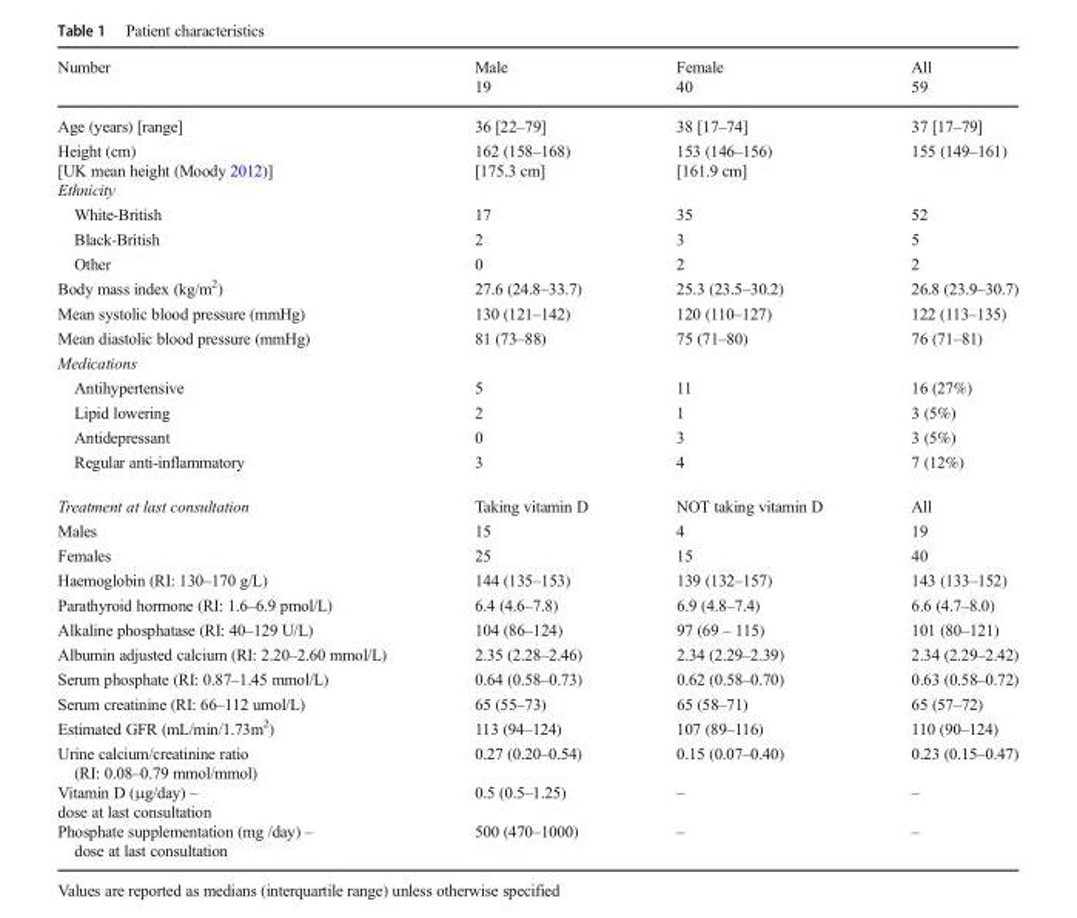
<table><thead><tr><td rowspan="2">Number</td><td rowspan="2">Male 19</td><td rowspan="2">Female 40</td><td rowspan="2">All 59</td></tr><tr></tr></thead><tbody><tr><td>Age (years) [range]</td><td>36 [22–79]</td><td>38 [17–74]</td><td>37 [17–79]</td></tr><tr><td>Height (cm) [UK mean height (Moody 2012)]</td><td>162 (158–168) [175.3 cm]</td><td>153 (146–156) [161.9 cm]</td><td>155 (149–161)</td></tr><tr><td colspan="4">Ethnicity</td></tr><tr><td>White-British</td><td>17</td><td>35</td><td>52</td></tr><tr><td>Black-British</td><td>2</td><td>3</td><td>5</td></tr><tr><td>Other</td><td>0</td><td>2</td><td>2</td></tr><tr><td>Body mass index (kg/m<sup>2</sup>)</td><td>27.6 (24.8–33.7)</td><td>25.3 (23.5–30.2)</td><td>26.8 (23.9–30.7)</td></tr><tr><td>Mean systolic blood pressure (mmHg)</td><td>130 (121–142)</td><td>120 (110–127)</td><td>122 (113–135)</td></tr><tr><td>Mean diastolic blood pressure (mmHg)</td><td>81 (73–88)</td><td>75 (71–80)</td><td>76 (71–81)</td></tr><tr><td colspan="4">Medications</td></tr><tr><td>Antihypertensive</td><td>5</td><td>11</td><td>16 (27%)</td></tr><tr><td>Lipid lowering</td><td>2</td><td>1</td><td>3 (5%)</td></tr><tr><td>Antidepressant</td><td>0</td><td>3</td><td>3 (5%)</td></tr><tr><td>Regular anti-inflammatory</td><td>3</td><td>4</td><td>7 (12%)</td></tr><tr><td>Treatment at last consultation</td><td>Taking vitamin D</td><td>NOT taking vitamin D</td><td>All</td></tr><tr><td>Males</td><td>15</td><td>4</td><td>19</td></tr><tr><td>Females</td><td>25</td><td>15</td><td>40</td></tr><tr><td>Haemoglobin (RI: 130–170 g/L)</td><td>144 (135–153)</td><td>139 (132–157)</td><td>143 (133–152)</td></tr><tr><td>Parathyroid hormone (RI: 1.6–6.9 pmol/L)</td><td>6.4 (4.6–7.8)</td><td>6.9 (4.8–7.4)</td><td>6.6 (4.7–8.0)</td></tr><tr><td>Alkaline phosphatase (RI: 40–129 U/L)</td><td>104 (86–124)</td><td>97 (69 – 115)</td><td>101 (80–121)</td></tr><tr><td>Albumin adjusted calcium (RI: 2.20–2.60 mmol/L)</td><td>2.35 (2.28–2.46)</td><td>2.34 (2.29–2.39)</td><td>2.34 (2.29–2.42)</td></tr><tr><td>Serum phosphate (RI: 0.87–1.45 mmol/L)</td><td>0.64 (0.58–0.73)</td><td>0.62 (0.58–0.70)</td><td>0.63 (0.58–0.72)</td></tr><tr><td>Serum creatinine (RI: 66–112 umol/L)</td><td>65 (55–73)</td><td>65 (58–71)</td><td>65 (57–72)</td></tr><tr><td>Estimated GFR (mL/min/1.73m<sup>2</sup>)</td><td>113 (94–124)</td><td>107 (89–116)</td><td>110 (90–124)</td></tr><tr><td>Urine calcium/creatinine ratio (RI: 0.08–0.79 mmol/mmol)</td><td>0.27 (0.20–0.54)</td><td>0.15 (0.07–0.40)</td><td>0.23 (0.15–0.47)</td></tr><tr><td>Vitamin D (μg/day) – dose at last consultation</td><td>0.5 (0.5–1.25)</td><td>–</td><td>–</td></tr><tr><td>Phosphate supplementation (mg /day) – dose at last consultation</td><td>500 (470–1000)</td><td>–</td><td>–</td></tr></tbody></table>